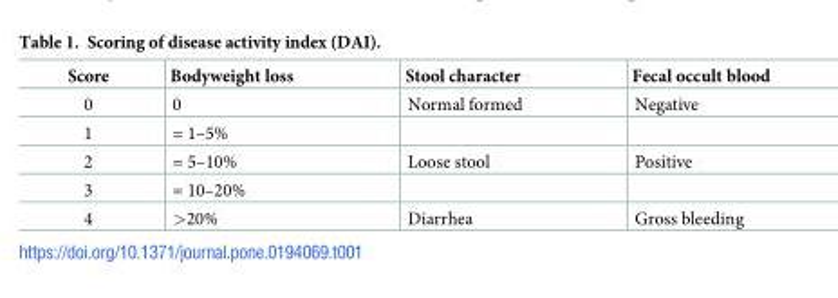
<table><thead><tr><td>Score</td><td>Bodyweight loss</td><td>Stool character</td><td>Fecal occult blood</td></tr></thead><tbody><tr><td>0</td><td>0</td><td>Normal formed</td><td>Negative</td></tr><tr><td>1</td><td>= 1–5%</td><td></td><td></td></tr><tr><td>2</td><td>= 5–10%</td><td>Loose stool</td><td>Positive</td></tr><tr><td>3</td><td>= 10–20%</td><td></td><td></td></tr><tr><td>4</td><td>&gt;20%</td><td>Diarrhea</td><td>Gross bleeding</td></tr></tbody></table>